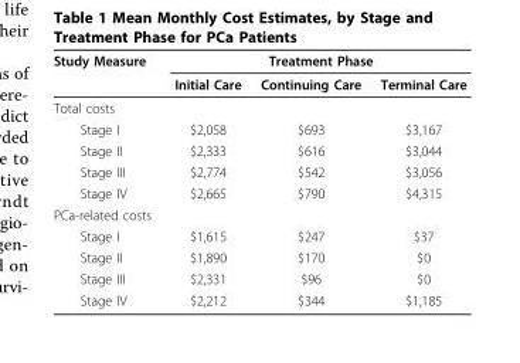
<table><thead><tr><td rowspan="2">Study Measure</td><td colspan="3">Treatment Phase</td></tr><tr><td>Initial Care</td><td>Continuing Care</td><td>Terminal Care</td></tr></thead><tbody><tr><td colspan="4">Total costs</td></tr><tr><td>Stage I</td><td>$2,058</td><td>$693</td><td>$3,167</td></tr><tr><td>Stage II</td><td>$2,333</td><td>$616</td><td>$3,044</td></tr><tr><td>Stage III</td><td>$2,774</td><td>$542</td><td>$3,056</td></tr><tr><td>Stage IV</td><td>$2,665</td><td>$790</td><td>$4,315</td></tr><tr><td colspan="4">PCa-related costs</td></tr><tr><td>Stage I</td><td>$1,615</td><td>$247</td><td>$37</td></tr><tr><td>Stage II</td><td>$1,890</td><td>$170</td><td>$0</td></tr><tr><td>Stage III</td><td>$2,331</td><td>$96</td><td>$0</td></tr><tr><td>Stage IV</td><td>$2,212</td><td>$344</td><td>$1,185</td></tr></tbody></table>